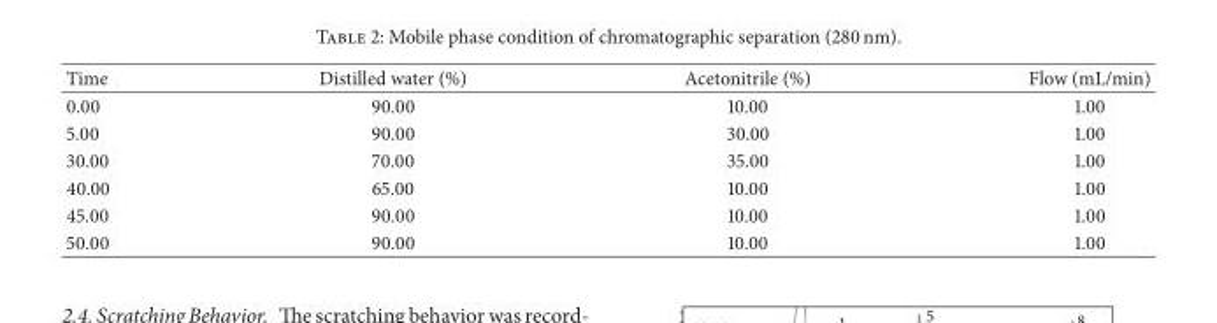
<table><thead><tr><td>Time</td><td>Distilled water (%)</td><td>Acetonitrile (%)</td><td>Flow (mL/min)</td></tr></thead><tbody><tr><td>0.00</td><td>90.00</td><td>10.00</td><td>1.00</td></tr><tr><td>5.00</td><td>90.00</td><td>30.00</td><td>1.00</td></tr><tr><td>30.00</td><td>70.00</td><td>35.00</td><td>1.00</td></tr><tr><td>40.00</td><td>65.00</td><td>10.00</td><td>1.00</td></tr><tr><td>45.00</td><td>90.00</td><td>10.00</td><td>1.00</td></tr><tr><td>50.00</td><td>90.00</td><td>10.00</td><td>1.00</td></tr></tbody></table>